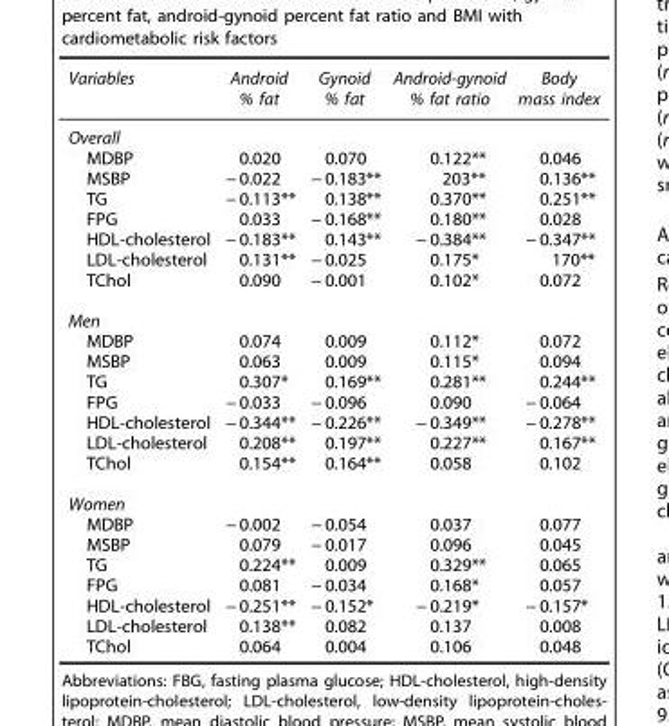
<table><thead><tr><td>Variables</td><td>Android % fat</td><td>Gynoid % fat</td><td>Android-gynoid % fat ratio</td><td>Body mass index</td></tr></thead><tbody><tr><td colspan="5">Overall</td></tr><tr><td>MDBP</td><td>0.020</td><td>0.070</td><td>0.122**</td><td>0.046</td></tr><tr><td>MSBP</td><td>− 0.022</td><td>− 0.183**</td><td>203**</td><td>0.136**</td></tr><tr><td>TG</td><td>− 0.113**</td><td>0.138**</td><td>0.370**</td><td>0.251**</td></tr><tr><td>FPG</td><td>0.033</td><td>− 0.168**</td><td>0.180**</td><td>0.028</td></tr><tr><td>HDL-cholesterol</td><td>− 0.183**</td><td>0.143**</td><td>− 0.384**</td><td>− 0.347**</td></tr><tr><td>LDL-cholesterol</td><td>0.131**</td><td>− 0.025</td><td>0.175*</td><td>170**</td></tr><tr><td>TChol</td><td>0.090</td><td>− 0.001</td><td>0.102*</td><td>0.072</td></tr><tr><td colspan="5">Men</td></tr><tr><td>MDBP</td><td>0.074</td><td>0.009</td><td>0.112*</td><td>0.072</td></tr><tr><td>MSBP</td><td>0.063</td><td>0.009</td><td>0.115*</td><td>0.094</td></tr><tr><td>TG</td><td>0.307*</td><td>0.169**</td><td>0.281**</td><td>0.244**</td></tr><tr><td>FPG</td><td>− 0.033</td><td>− 0.096</td><td>0.090</td><td>− 0.064</td></tr><tr><td>HDL-cholesterol</td><td>− 0.344**</td><td>− 0.226**</td><td>− 0.349**</td><td>− 0.278**</td></tr><tr><td>LDL-cholesterol</td><td>0.208**</td><td>0.197**</td><td>0.227**</td><td>0.167**</td></tr><tr><td>TChol</td><td>0.154**</td><td>0.164**</td><td>0.058</td><td>0.102</td></tr><tr><td colspan="5">Women</td></tr><tr><td>MDBP</td><td>− 0.002</td><td>− 0.054</td><td>0.037</td><td>0.077</td></tr><tr><td>MSBP</td><td>0.079</td><td>− 0.017</td><td>0.096</td><td>0.045</td></tr><tr><td>TG</td><td>0.224**</td><td>0.009</td><td>0.329**</td><td>0.065</td></tr><tr><td>FPG</td><td>0.081</td><td>− 0.034</td><td>0.168*</td><td>0.057</td></tr><tr><td>HDL-cholesterol</td><td>− 0.251**</td><td>− 0.152*</td><td>− 0.219*</td><td>− 0.157*</td></tr><tr><td>LDL-cholesterol</td><td>0.138**</td><td>0.082</td><td>0.137</td><td>0.008</td></tr><tr><td>TChol</td><td>0.064</td><td>0.004</td><td>0.106</td><td>0.048</td></tr></tbody></table>